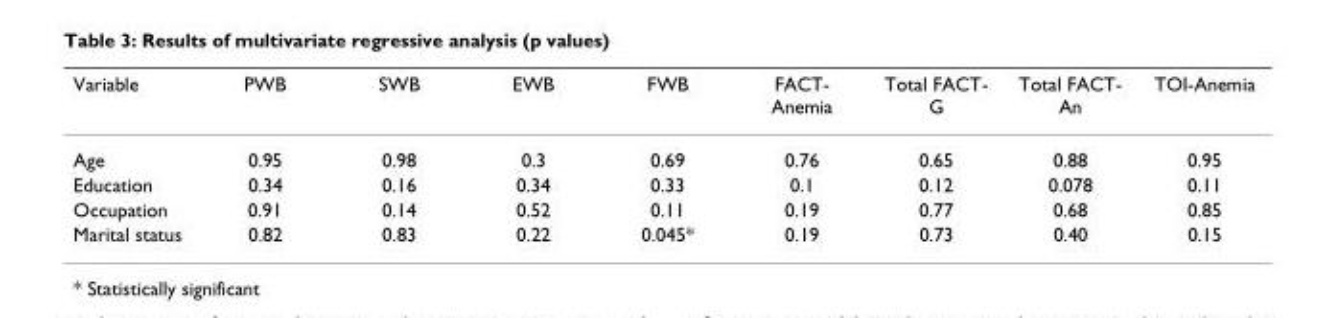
<table><thead><tr><td>Variable</td><td>PWB</td><td>SWB</td><td>EWB</td><td>FWB</td><td>FACT- Anemia</td><td>Total FACT- G</td><td>Total FACT- An</td><td>TOI-Anemia</td></tr></thead><tbody><tr><td>Age</td><td>0.95</td><td>0.98</td><td>0.3</td><td>0.69</td><td>0.76</td><td>0.65</td><td>0.88</td><td>0.95</td></tr><tr><td>Education</td><td>0.34</td><td>0.16</td><td>0.34</td><td>0.33</td><td>0.1</td><td>0.12</td><td>0.078</td><td>0.11</td></tr><tr><td>Occupation</td><td>0.91</td><td>0.14</td><td>0.52</td><td>0.11</td><td>0.19</td><td>0.77</td><td>0.68</td><td>0.85</td></tr><tr><td>Marital status</td><td>0.82</td><td>0.83</td><td>0.22</td><td>0.045*</td><td>0.19</td><td>0.73</td><td>0.40</td><td>0.15</td></tr></tbody></table>